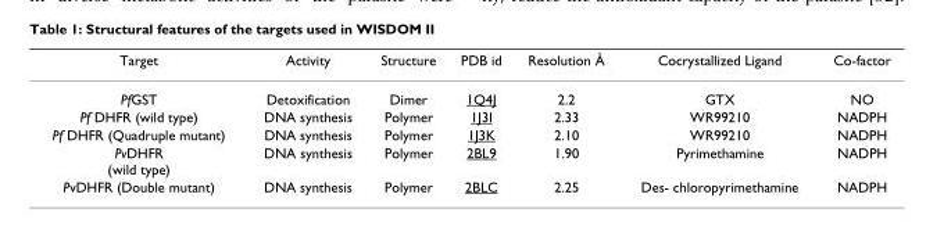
<table><thead><tr><td>Target</td><td>Activity</td><td>Structure</td><td>PDB id</td><td>Resolution Å</td><td>Cocrystallized Ligand</td><td>Co-factor</td></tr></thead><tbody><tr><td>PfGST</td><td>Detoxification</td><td>Dimer</td><td>1Q4J</td><td>2.2</td><td>GTX</td><td>NO</td></tr><tr><td>Pf DHFR (wild type)</td><td>DNA synthesis</td><td>Polymer</td><td>1J3I</td><td>2.33</td><td>WR99210</td><td>NADPH</td></tr><tr><td>Pf DHFR (Quadruple mutant)</td><td>DNA synthesis</td><td>Polymer</td><td>1J3K</td><td>2.10</td><td>WR99210</td><td>NADPH</td></tr><tr><td>PvDHFR (wild type)</td><td>DNA synthesis</td><td>Polymer</td><td>2BL9</td><td>1.90</td><td>Pyrimethamine</td><td>NADPH</td></tr><tr><td>PvDHFR (Double mutant)</td><td>DNA synthesis</td><td>Polymer</td><td>2BLC</td><td>2.25</td><td>Des- chloropyrimethamine</td><td>NADPH</td></tr></tbody></table>